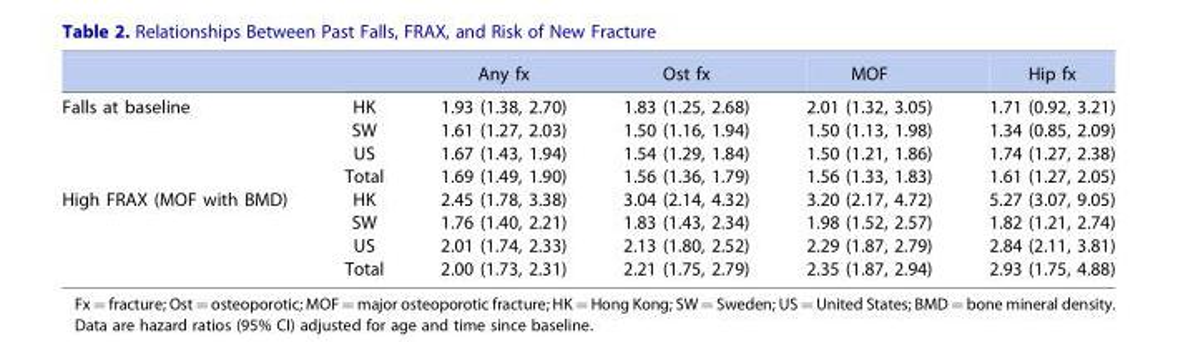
<table><thead><tr><td></td><td></td><td>Any fx</td><td>Ost fx</td><td>MOF</td><td>Hip fx</td></tr></thead><tbody><tr><td rowspan="4">Falls at baseline</td><td>HK</td><td>1.93 (1.38, 2.70)</td><td>1.83 (1.25, 2.68)</td><td>2.01 (1.32, 3.05)</td><td>1.71 (0.92, 3.21)</td></tr><tr><td>SW</td><td>1.61 (1.27, 2.03)</td><td>1.50 (1.16, 1.94)</td><td>1.50 (1.13, 1.98)</td><td>1.34 (0.85, 2.09)</td></tr><tr><td>US</td><td>1.67 (1.43, 1.94)</td><td>1.54 (1.29, 1.84)</td><td>1.50 (1.21, 1.86)</td><td>1.74 (1.27, 2.38)</td></tr><tr><td>Total</td><td>1.69 (1.49, 1.90)</td><td>1.56 (1.36, 1.79)</td><td>1.56 (1.33, 1.83)</td><td>1.61 (1.27, 2.05)</td></tr><tr><td rowspan="4">High FRAX (MOF with BMD)</td><td>HK</td><td>2.45 (1.78, 3.38)</td><td>3.04 (2.14, 4.32)</td><td>3.20 (2.17, 4.72)</td><td>5.27 (3.07, 9.05)</td></tr><tr><td>SW</td><td>1.76 (1.40, 2.21)</td><td>1.83 (1.43, 2.34)</td><td>1.98 (1.52, 2.57)</td><td>1.82 (1.21, 2.74)</td></tr><tr><td>US</td><td>2.01 (1.74, 2.33)</td><td>2.13 (1.80, 2.52)</td><td>2.29 (1.87, 2.79)</td><td>2.84 (2.11, 3.81)</td></tr><tr><td>Total</td><td>2.00 (1.73, 2.31)</td><td>2.21 (1.75, 2.79)</td><td>2.35 (1.87, 2.94)</td><td>2.93 (1.75, 4.88)</td></tr></tbody></table>